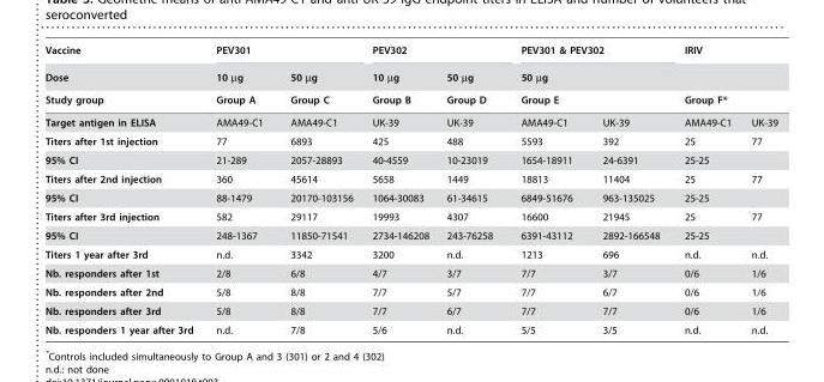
<table><thead><tr><td rowspan="4">Vaccine Dose Study group Target antigen in ELISA</td><td colspan="2">PEV301</td><td colspan="2">PEV302</td><td rowspan="3" colspan="2">PEV301 &amp; PEV302 50 µg Group E</td><td colspan="2">IRIV</td></tr><tr><td rowspan="3">10 µg Group A AMA49-C1</td><td rowspan="3">50 µg Group C AMA49-C1</td><td rowspan="3">10 µg Group B UK-39</td><td rowspan="3">50 µg Group D UK-39</td><td></td><td></td></tr><tr><td colspan="2">Group F*</td></tr><tr><td>AMA49-C1</td><td>UK-39</td><td>AMA49-C1</td><td>UK-39</td></tr></thead><tbody><tr><td>Titers after 1st injection</td><td>77</td><td>6893</td><td>425</td><td>488</td><td>5593</td><td>392</td><td>25</td><td>77</td></tr><tr><td>95% CI</td><td>21-289</td><td>2057-28893</td><td>40-4559</td><td>10-23019</td><td>1654-18911</td><td>24-6391</td><td>25-25</td><td></td></tr><tr><td>Titers after 2nd injection</td><td>360</td><td>45614</td><td>5658</td><td>1449</td><td>18813</td><td>11404</td><td>25</td><td>77</td></tr><tr><td>95% CI</td><td>88-1479</td><td>20170-103156</td><td>1064-30083</td><td>61-34615</td><td>6849-51676</td><td>963-135025</td><td>25-25</td><td></td></tr><tr><td>Titers after 3rd injection</td><td>582</td><td>29117</td><td>19993</td><td>4307</td><td>16600</td><td>21945</td><td>25</td><td>77</td></tr><tr><td>95% CI</td><td>248-1367</td><td>11850-71541</td><td>2734-146208</td><td>243-76258</td><td>6391-43112</td><td>2892-166548</td><td>25-25</td><td></td></tr><tr><td>Titers 1 year after 3rd</td><td>n.d.</td><td>3342</td><td>3200</td><td>n.d.</td><td>1213</td><td>696</td><td>n.d.</td><td>n.d.</td></tr><tr><td>Nb. responders after 1st</td><td>2/8</td><td>6/8</td><td>4/7</td><td>3/7</td><td>7/7</td><td>3/7</td><td>0/6</td><td>1/6</td></tr><tr><td>Nb. responders after 2nd</td><td>5/8</td><td>8/8</td><td>7/7</td><td>5/7</td><td>7/7</td><td>6/7</td><td>0/6</td><td>1/6</td></tr><tr><td>Nb. responders after 3rd</td><td>5/8</td><td>8/8</td><td>7/7</td><td>6/7</td><td>7/7</td><td>7/7</td><td>0/6</td><td>1/6</td></tr><tr><td>Nb. responders 1 year after 3rd</td><td>n.d.</td><td>7/8</td><td>5/6</td><td>n.d.</td><td>5/5</td><td>3/5</td><td>n.d.</td><td>n.d.</td></tr></tbody></table>